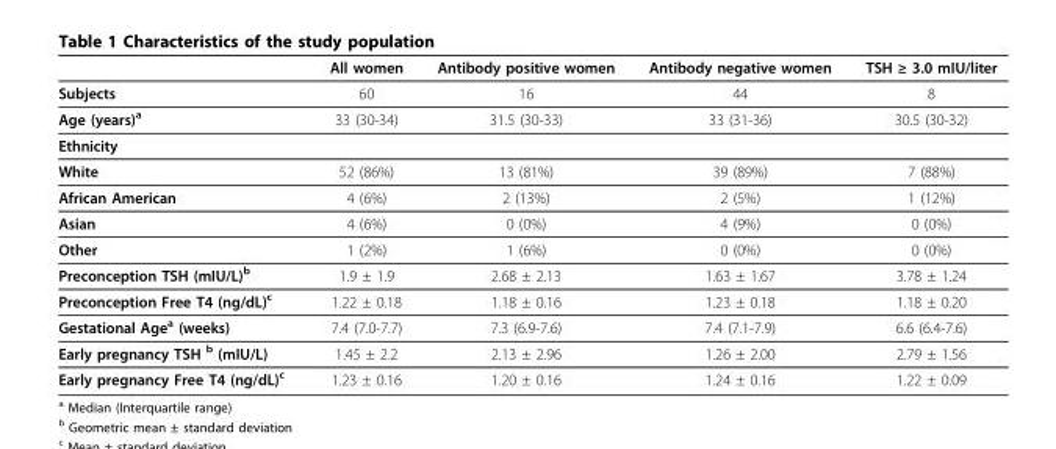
<table><thead><tr><td></td><td>All women</td><td>Antibody positive women</td><td>Antibody negative women</td><td>TSH ≥ 3.0 mIU/liter</td></tr></thead><tbody><tr><td>Subjects</td><td>60</td><td>16</td><td>44</td><td>8</td></tr><tr><td>Age (years)<sup>a</sup></td><td>33 (30-34)</td><td>31.5 (30-33)</td><td>33 (31-36)</td><td>30.5 (30-32)</td></tr><tr><td colspan="5">Ethnicity</td></tr><tr><td>White</td><td>52 (86%)</td><td>13 (81%)</td><td>39 (89%)</td><td>7 (88%)</td></tr><tr><td>African American</td><td>4 (6%)</td><td>2 (13%)</td><td>2 (5%)</td><td>1 (12%)</td></tr><tr><td>Asian</td><td>4 (6%)</td><td>0 (0%)</td><td>4 (9%)</td><td>0 (0%)</td></tr><tr><td>Other</td><td>1 (2%)</td><td>1 (6%)</td><td>0 (0%)</td><td>0 (0%)</td></tr><tr><td>Preconception TSH (mIU/L)<sup>b</sup></td><td>1.9 ± 1.9</td><td>2.68 ± 2.13</td><td>1.63 ± 1.67</td><td>3.78 ± 1.24</td></tr><tr><td>Preconception Free T4 (ng/dL)<sup>c</sup></td><td>1.22 ± 0.18</td><td>1.18 ± 0.16</td><td>1.23 ± 0.18</td><td>1.18 ± 0.20</td></tr><tr><td>Gestational Age<sup>a</sup> (weeks)</td><td>7.4 (7.0-7.7)</td><td>7.3 (6.9-7.6)</td><td>7.4 (7.1-7.9)</td><td>6.6 (6.4-7.6)</td></tr><tr><td>Early pregnancy TSH <sup>b</sup> (mIU/L)</td><td>1.45 ± 2.2</td><td>2.13 ± 2.96</td><td>1.26 ± 2.00</td><td>2.79 ± 1.56</td></tr><tr><td>Early pregnancy Free T4 (ng/dL)<sup>c</sup></td><td>1.23 ± 0.16</td><td>1.20 ± 0.16</td><td>1.24 ± 0.16</td><td>1.22 ± 0.09</td></tr></tbody></table>